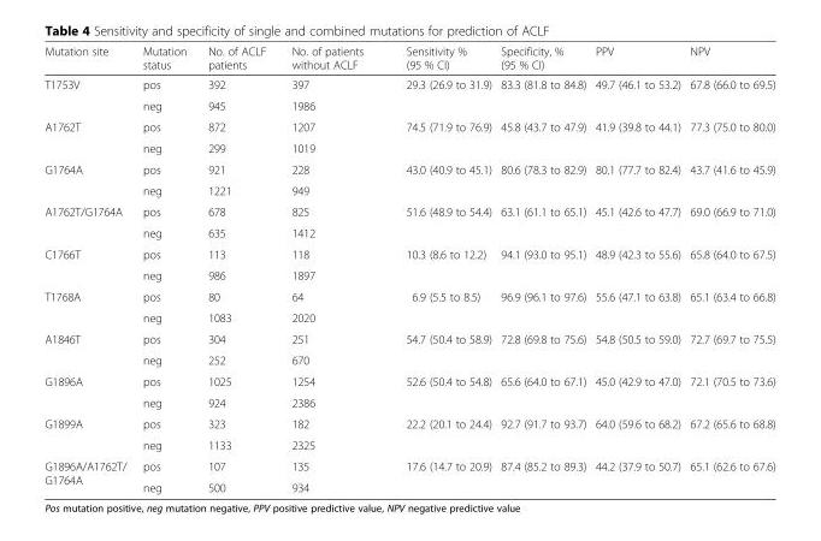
<table><thead><tr><td>Mutation site</td><td>Mutation status</td><td>No. of ACLF patients</td><td>No. of patients without ACLF</td><td>Sensitivity % (95 % CI)</td><td>Specificity, % (95 % CI)</td><td>PPV</td><td>NPV</td></tr></thead><tbody><tr><td rowspan="2">T1753V</td><td>pos</td><td>392</td><td>397</td><td rowspan="2">29.3 (26.9 to 31.9)</td><td rowspan="2">83.3 (81.8 to 84.8)</td><td rowspan="2">49.7 (46.1 to 53.2)</td><td rowspan="2">67.8 (66.0 to 69.5)</td></tr><tr><td>neg</td><td>945</td><td>1986</td></tr><tr><td rowspan="2">A1762T</td><td>pos</td><td>872</td><td>1207</td><td rowspan="2">74.5 (71.9 to 76.9)</td><td rowspan="2">45.8 (43.7 to 47.9)</td><td rowspan="2">41.9 (39.8 to 44.1)</td><td rowspan="2">77.3 (75.0 to 80.0)</td></tr><tr><td>neg</td><td>299</td><td>1019</td></tr><tr><td rowspan="2">G1764A</td><td>pos</td><td>921</td><td>228</td><td rowspan="2">43.0 (40.9 to 45.1)</td><td rowspan="2">80.6 (78.3 to 82.9)</td><td rowspan="2">80.1 (77.7 to 82.4)</td><td rowspan="2">43.7 (41.6 to 45.9)</td></tr><tr><td>neg</td><td>1221</td><td>949</td></tr><tr><td rowspan="2">A1762T/G1764A</td><td>pos</td><td>678</td><td>825</td><td rowspan="2">51.6 (48.9 to 54.4)</td><td rowspan="2">63.1 (61.1 to 65.1)</td><td rowspan="2">45.1 (42.6 to 47.7)</td><td rowspan="2">69.0 (66.9 to 71.0)</td></tr><tr><td>neg</td><td>635</td><td>1412</td></tr><tr><td rowspan="2">C1766T</td><td>pos</td><td>113</td><td>118</td><td rowspan="2">10.3 (8.6 to 12.2)</td><td rowspan="2">94.1 (93.0 to 95.1)</td><td rowspan="2">48.9 (42.3 to 55.6)</td><td rowspan="2">65.8 (64.0 to 67.5)</td></tr><tr><td>neg</td><td>986</td><td>1897</td></tr><tr><td rowspan="2">T1768A</td><td>pos</td><td>80</td><td>64</td><td rowspan="2">6.9 (5.5 to 8.5)</td><td rowspan="2">96.9 (96.1 to 97.6)</td><td rowspan="2">55.6 (47.1 to 63.8)</td><td rowspan="2">65.1 (63.4 to 66.8)</td></tr><tr><td>neg</td><td>1083</td><td>2020</td></tr><tr><td rowspan="2">A1846T</td><td>pos</td><td>304</td><td>251</td><td rowspan="2">54.7 (50.4 to 58.9)</td><td rowspan="2">72.8 (69.8 to 75.6)</td><td rowspan="2">54.8 (50.5 to 59.0)</td><td rowspan="2">72.7 (69.7 to 75.5)</td></tr><tr><td>neg</td><td>252</td><td>670</td></tr><tr><td rowspan="2">G1896A</td><td>pos</td><td>1025</td><td>1254</td><td rowspan="2">52.6 (50.4 to 54.8)</td><td rowspan="2">65.6 (64.0 to 67.1)</td><td rowspan="2">45.0 (42.9 to 47.0)</td><td rowspan="2">72.1 (70.5 to 73.6)</td></tr><tr><td>neg</td><td>924</td><td>2386</td></tr><tr><td rowspan="2">G1899A</td><td>pos</td><td>323</td><td>182</td><td rowspan="2">22.2 (20.1 to 24.4)</td><td rowspan="2">92.7 (91.7 to 93.7)</td><td rowspan="2">64.0 (59.6 to 68.2)</td><td rowspan="2">67.2 (65.6 to 68.8)</td></tr><tr><td>neg</td><td>1133</td><td>2325</td></tr><tr><td rowspan="2">G1896A/A1762T/ G1764A</td><td>pos</td><td>107</td><td>135</td><td rowspan="2">17.6 (14.7 to 20.9)</td><td rowspan="2">87.4 (85.2 to 89.3)</td><td rowspan="2">44.2 (37.9 to 50.7)</td><td rowspan="2">65.1 (62.6 to 67.6)</td></tr><tr><td>neg</td><td>500</td><td>934</td></tr></tbody></table>